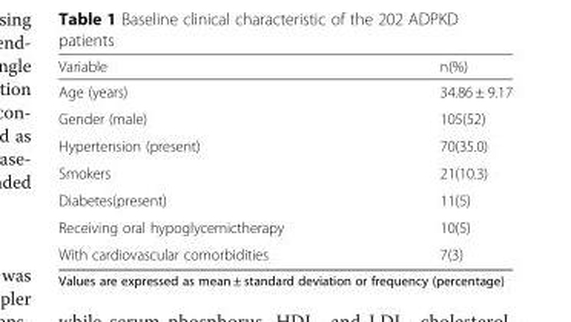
<table><thead><tr><td>Variable</td><td>n(%)</td></tr></thead><tbody><tr><td>Age (years)</td><td>34.86 ± 9.17</td></tr><tr><td>Gender (male)</td><td>105(52)</td></tr><tr><td>Hypertension (present)</td><td>70(35.0)</td></tr><tr><td>Smokers</td><td>21(10.3)</td></tr><tr><td>Diabetes(present)</td><td>11(5)</td></tr><tr><td>Receiving oral hypoglycemictherapy</td><td>10(5)</td></tr><tr><td>With cardiovascular comorbidities</td><td>7(3)</td></tr></tbody></table>